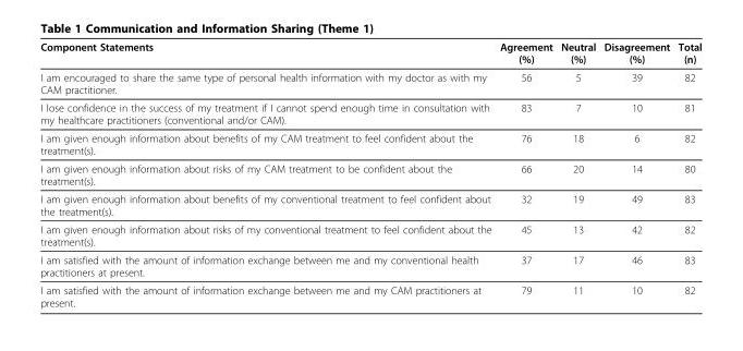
<table><thead><tr><td>Component Statements</td><td>Agreement (%)</td><td>Neutral (%)</td><td>Disagreement (%)</td><td>Total (n)</td></tr></thead><tbody><tr><td>I am encouraged to share the same type of personal health information with my doctor as with my CAM practitioner.</td><td>56</td><td>5</td><td>39</td><td>82</td></tr><tr><td>I lose confidence in the success of my treatment if I cannot spend enough time in consultation with my healthcare practitioners (conventional and/or CAM).</td><td>83</td><td>7</td><td>10</td><td>81</td></tr><tr><td>I am given enough information about benefits of my CAM treatment to feel confident about the treatment(s).</td><td>76</td><td>18</td><td>6</td><td>82</td></tr><tr><td>I am given enough information about risks of my CAM treatment to be confident about the treatment(s).</td><td>66</td><td>20</td><td>14</td><td>80</td></tr><tr><td>I am given enough information about benefits of my conventional treatment to feel confident about the treatment(s).</td><td>32</td><td>19</td><td>49</td><td>83</td></tr><tr><td>I am given enough information about risks of my conventional treatment to feel confident about the treatment(s).</td><td>45</td><td>13</td><td>42</td><td>82</td></tr><tr><td>I am satisfied with the amount of information exchange between me and my conventional health practitioners at present.</td><td>37</td><td>17</td><td>46</td><td>83</td></tr><tr><td>I am satisfied with the amount of information exchange between me and my CAM practitioners at present.</td><td>79</td><td>11</td><td>10</td><td>82</td></tr></tbody></table>